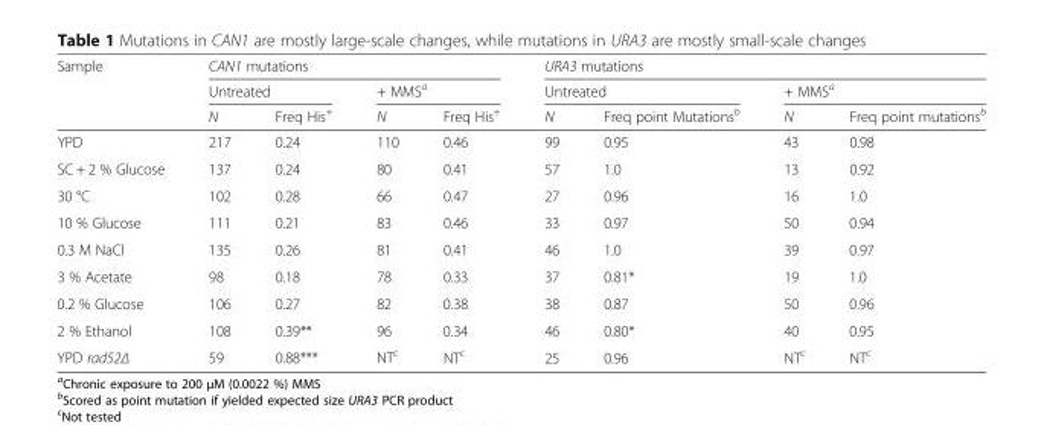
<table><thead><tr><td rowspan="3">Sample</td><td colspan="4">CAN1 mutations</td><td colspan="4">URA3 mutations</td></tr><tr><td colspan="2">Untreated</td><td colspan="2">+ MMS<sup>a</sup></td><td colspan="2">Untreated</td><td colspan="2">+ MMS<sup>a</sup></td></tr><tr><td>N</td><td>Freq His<sup>+</sup></td><td>N</td><td>Freq His<sup>+</sup></td><td>N</td><td>Freq point Mutations<sup>b</sup></td><td>N</td><td>Freq point mutations<sup>b</sup></td></tr></thead><tbody><tr><td>YPD</td><td>217</td><td>0.24</td><td>110</td><td>0.46</td><td>99</td><td>0.95</td><td>43</td><td>0.98</td></tr><tr><td>SC + 2 % Glucose</td><td>137</td><td>0.24</td><td>80</td><td>0.41</td><td>57</td><td>1.0</td><td>13</td><td>0.92</td></tr><tr><td>30 °C</td><td>102</td><td>0.28</td><td>66</td><td>0.47</td><td>27</td><td>0.96</td><td>16</td><td>1.0</td></tr><tr><td>10 % Glucose</td><td>111</td><td>0.21</td><td>83</td><td>0.46</td><td>33</td><td>0.97</td><td>50</td><td>0.94</td></tr><tr><td>0.3 M NaCl</td><td>135</td><td>0.26</td><td>81</td><td>0.41</td><td>46</td><td>1.0</td><td>39</td><td>0.97</td></tr><tr><td>3 % Acetate</td><td>98</td><td>0.18</td><td>78</td><td>0.33</td><td>37</td><td>0.81*</td><td>19</td><td>1.0</td></tr><tr><td>0.2 % Glucose</td><td>106</td><td>0.27</td><td>82</td><td>0.38</td><td>38</td><td>0.87</td><td>50</td><td>0.96</td></tr><tr><td>2 % Ethanol</td><td>108</td><td>0.39**</td><td>96</td><td>0.34</td><td>46</td><td>0.80*</td><td>40</td><td>0.95</td></tr><tr><td>YPD rad52Δ</td><td>59</td><td>0.88***</td><td>NT<sup>c</sup></td><td>NT<sup>c</sup></td><td>25</td><td>0.96</td><td>NT<sup>c</sup></td><td>NT<sup>c</sup></td></tr></tbody></table>